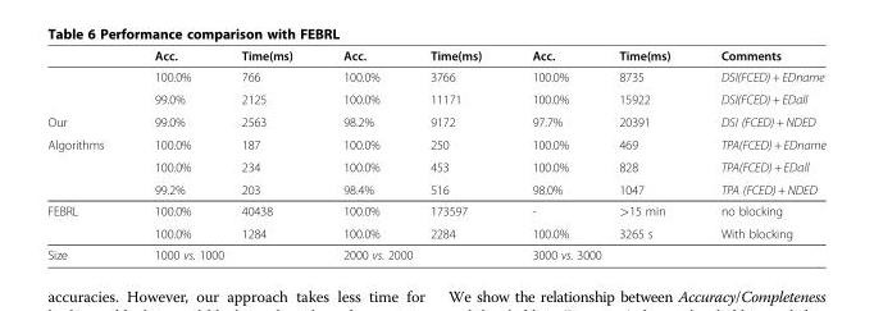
<table><thead><tr><td></td><td>Acc.</td><td>Time(ms)</td><td>Acc.</td><td>Time(ms)</td><td>Acc.</td><td>Time(ms)</td><td>Comments</td></tr></thead><tbody><tr><td></td><td>100.0%</td><td>766</td><td>100.0%</td><td>3766</td><td>100.0%</td><td>8735</td><td>DSI(FCED) + EDname</td></tr><tr><td></td><td>99.0%</td><td>2125</td><td>100.0%</td><td>11171</td><td>100.0%</td><td>15922</td><td>DSI(FCED) + EDall</td></tr><tr><td>Our</td><td>99.0%</td><td>2563</td><td>98.2%</td><td>9172</td><td>97.7%</td><td>20391</td><td>DSI (FCED) + NDED</td></tr><tr><td rowspan="3">Algorithms</td><td>100.0%</td><td>187</td><td>100.0%</td><td>250</td><td>100.0%</td><td>469</td><td>TPA(FCED) + EDname</td></tr><tr><td>100.0%</td><td>234</td><td>100.0%</td><td>453</td><td>100.0%</td><td>828</td><td>TPA(FCED) + EDall</td></tr><tr><td>99.2%</td><td>203</td><td>98.4%</td><td>516</td><td>98.0%</td><td>1047</td><td>TPA (FCED) + NDED</td></tr><tr><td rowspan="2">FEBRL</td><td>100.0%</td><td>40438</td><td>100.0%</td><td>173597</td><td>-</td><td>&gt;15 min</td><td>no blocking</td></tr><tr><td>100.0%</td><td>1284</td><td>100.0%</td><td>2284</td><td>100.0%</td><td>3265 s</td><td>With blocking</td></tr><tr><td>Size</td><td colspan="2">1000 vs. 1000</td><td colspan="2">2000 vs. 2000</td><td colspan="2">3000 vs. 3000</td><td></td></tr></tbody></table>